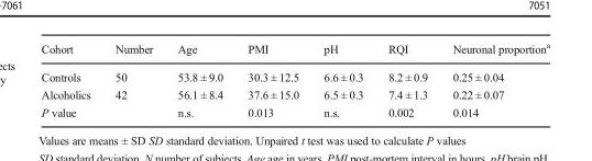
<table><thead><tr><td>Cohort</td><td>Number</td><td>Age</td><td>PMI</td><td>pH</td><td>RQI</td><td>Neuronal proportion<sup>a</sup></td></tr></thead><tbody><tr><td>Controls</td><td>50</td><td>53.8 ± 9.0</td><td>30.3 ± 12.5</td><td>6.6 ± 0.3</td><td>8.2 ± 0.9</td><td>0.25 ± 0.04</td></tr><tr><td>Alcoholics</td><td>42</td><td>56.1 ± 8.4</td><td>37.6 ± 15.0</td><td>6.5 ± 0.3</td><td>7.4 ± 1.3</td><td>0.22 ± 0.07</td></tr><tr><td>P value</td><td></td><td>n.s.</td><td>0.013</td><td>n.s.</td><td>0.002</td><td>0.014</td></tr></tbody></table>